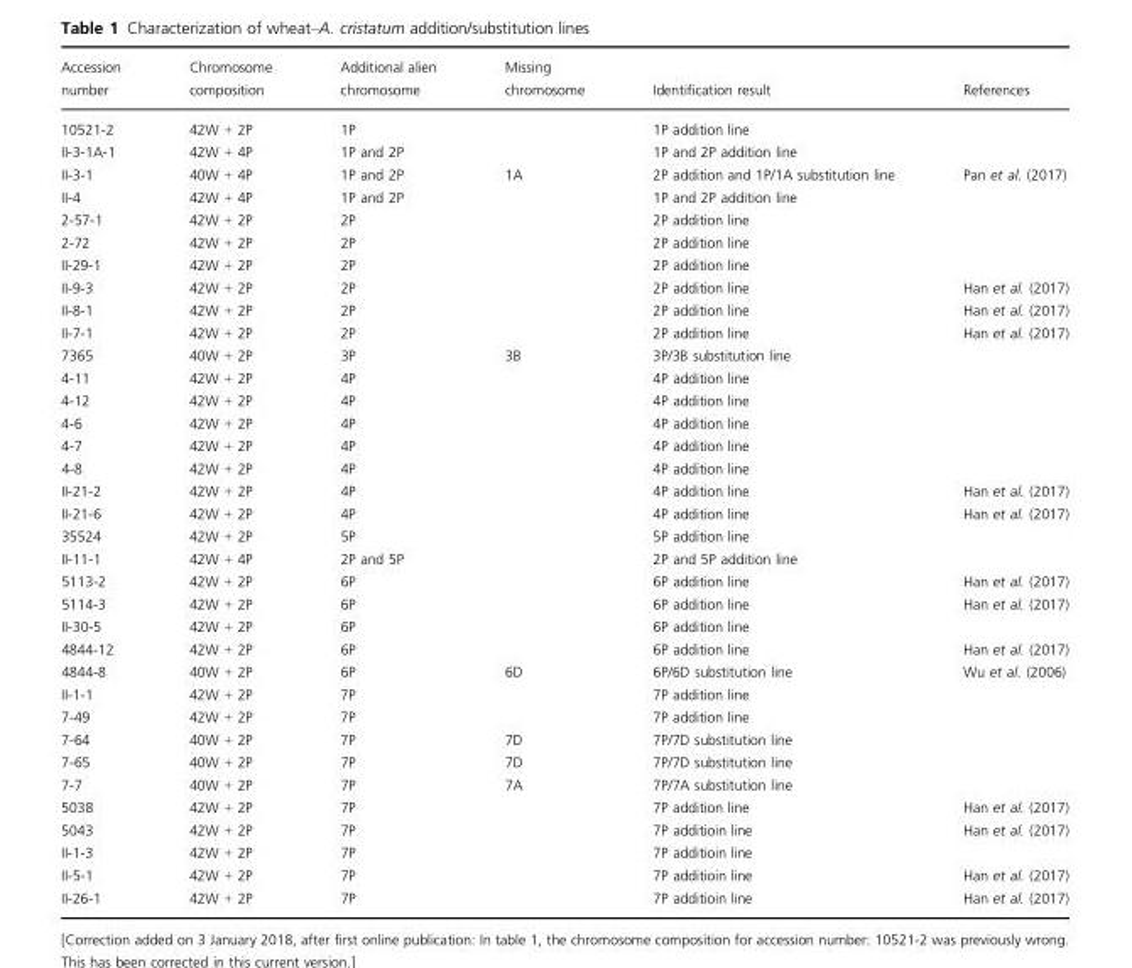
<table><thead><tr><td>Accession number</td><td>Chromosome composition</td><td>Additional alien chromosome</td><td>Missing chromosome</td><td>Identification result</td><td>References</td></tr></thead><tbody><tr><td>10521-2</td><td>42W + 2P</td><td>1P</td><td></td><td>1P addition line</td><td></td></tr><tr><td>II-3-1A-1</td><td>42W + 4P</td><td>1P and 2P</td><td></td><td>1P and 2P addition line</td><td></td></tr><tr><td>II-3-1</td><td>40W + 4P</td><td>1P and 2P</td><td>1A</td><td>2P addition and 1P/1A substitution line</td><td>Pan et al. (2017)</td></tr><tr><td>II-4</td><td>42W + 4P</td><td>1P and 2P</td><td></td><td>1P and 2P addition line</td><td></td></tr><tr><td>2-57-1</td><td>42W + 2P</td><td>2P</td><td></td><td>2P addition line</td><td></td></tr><tr><td>2-72</td><td>42W + 2P</td><td>2P</td><td></td><td>2P addition line</td><td></td></tr><tr><td>II-29-1</td><td>42W + 2P</td><td>2P</td><td></td><td>2P addition line</td><td></td></tr><tr><td>II-9-3</td><td>42W + 2P</td><td>2P</td><td></td><td>2P addition line</td><td>Han et al. (2017)</td></tr><tr><td>II-8-1</td><td>42W + 2P</td><td>2P</td><td></td><td>2P addition line</td><td>Han et al. (2017)</td></tr><tr><td>II-7-1</td><td>42W + 2P</td><td>2P</td><td></td><td>2P addition line</td><td>Han et al. (2017)</td></tr><tr><td>7365</td><td>40W + 2P</td><td>3P</td><td>3B</td><td>3P/3B substitution line</td><td></td></tr><tr><td>4-11</td><td>42W + 2P</td><td>4P</td><td></td><td>4P addition line</td><td></td></tr><tr><td>4-12</td><td>42W + 2P</td><td>4P</td><td></td><td>4P addition line</td><td></td></tr><tr><td>4-6</td><td>42W + 2P</td><td>4P</td><td></td><td>4P addition line</td><td></td></tr><tr><td>4-7</td><td>42W + 2P</td><td>4P</td><td></td><td>4P addition line</td><td></td></tr><tr><td>4-8</td><td>42W + 2P</td><td>4P</td><td></td><td>4P addition line</td><td></td></tr><tr><td>II-21-2</td><td>42W + 2P</td><td>4P</td><td></td><td>4P addition line</td><td>Han et al. (2017)</td></tr><tr><td>II-21-6</td><td>42W + 2P</td><td>4P</td><td></td><td>4P addition line</td><td>Han et al. (2017)</td></tr><tr><td>35524</td><td>42W + 2P</td><td>5P</td><td></td><td>5P addition line</td><td></td></tr><tr><td>II-11-1</td><td>42W + 4P</td><td>2P and 5P</td><td></td><td>2P and 5P addition line</td><td></td></tr><tr><td>5113-2</td><td>42W + 2P</td><td>6P</td><td></td><td>6P addition line</td><td>Han et al. (2017)</td></tr><tr><td>5114-3</td><td>42W + 2P</td><td>6P</td><td></td><td>6P addition line</td><td>Han et al. (2017)</td></tr><tr><td>II-30-5</td><td>42W + 2P</td><td>6P</td><td></td><td>6P addition line</td><td></td></tr><tr><td>4844-12</td><td>42W + 2P</td><td>6P</td><td></td><td>6P addition line</td><td>Han et al. (2017)</td></tr><tr><td>4844-8</td><td>40W + 2P</td><td>6P</td><td>6D</td><td>6P/6D substitution line</td><td>Wu et al. (2006)</td></tr><tr><td>II-1-1</td><td>42W + 2P</td><td>7P</td><td></td><td>7P addition line</td><td></td></tr><tr><td>7-49</td><td>42W + 2P</td><td>7P</td><td></td><td>7P addition line</td><td></td></tr><tr><td>7-64</td><td>40W + 2P</td><td>7P</td><td>7D</td><td>7P/7D substitution line</td><td></td></tr><tr><td>7-65</td><td>40W + 2P</td><td>7P</td><td>7D</td><td>7P/7D substitution line</td><td></td></tr><tr><td>7-7</td><td>40W + 2P</td><td>7P</td><td>7A</td><td>7P/7A substitution line</td><td></td></tr><tr><td>5038</td><td>42W + 2P</td><td>7P</td><td></td><td>7P addition line</td><td>Han et al. (2017)</td></tr><tr><td>5043</td><td>42W + 2P</td><td>7P</td><td></td><td>7P additioin line</td><td>Han et al. (2017)</td></tr><tr><td>II-1-3</td><td>42W + 2P</td><td>7P</td><td></td><td>7P additioin line</td><td></td></tr><tr><td>II-5-1</td><td>42W + 2P</td><td>7P</td><td></td><td>7P additioin line</td><td>Han et al. (2017)</td></tr><tr><td>II-26-1</td><td>42W + 2P</td><td>7P</td><td></td><td>7P additioin line</td><td>Han et al. (2017)</td></tr></tbody></table>